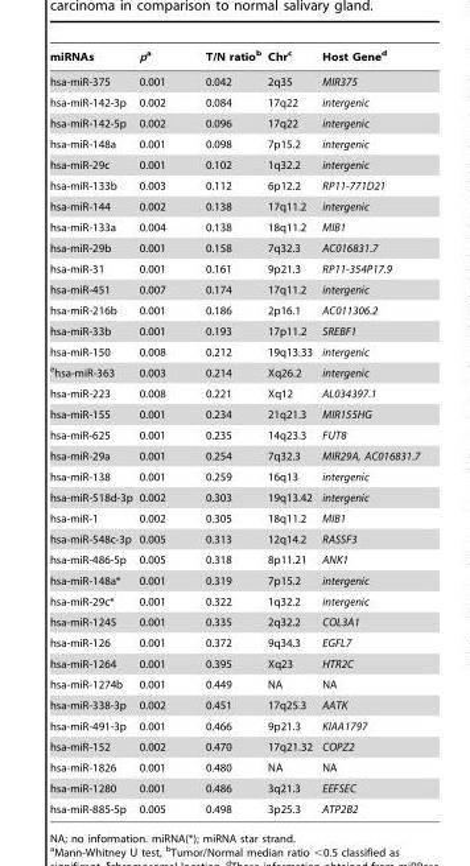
<table><thead><tr><td>miRNAs</td><td>pa</td><td>T/N ratio<sup>b</sup></td><td>Chr<sup>c</sup></td><td>Host Gene<sup>d</sup></td></tr></thead><tbody><tr><td>hsa-miR-375</td><td>0.001</td><td>0.042</td><td>2q35</td><td>MIR375</td></tr><tr><td>hsa-miR-142-3p</td><td>0.002</td><td>0.084</td><td>17q22</td><td>intergenic</td></tr><tr><td>hsa-miR-142-5p</td><td>0.002</td><td>0.096</td><td>17q22</td><td>intergenic</td></tr><tr><td>hsa-miR-148a</td><td>0.001</td><td>0.098</td><td>7p15.2</td><td>intergenic</td></tr><tr><td>hsa-miR-29c</td><td>0.001</td><td>0.102</td><td>1q32.2</td><td>intergenic</td></tr><tr><td>hsa-miR-133b</td><td>0.003</td><td>0.112</td><td>6p12.2</td><td>RP11-771D21</td></tr><tr><td>hsa-miR-144</td><td>0.002</td><td>0.138</td><td>17q11.2</td><td>intergenic</td></tr><tr><td>hsa-miR-133a</td><td>0.004</td><td>0.138</td><td>18q11.2</td><td>MIB1</td></tr><tr><td>hsa-miR-29b</td><td>0.001</td><td>0.158</td><td>7q32.3</td><td>AC016831.7</td></tr><tr><td>hsa-miR-31</td><td>0.001</td><td>0.161</td><td>9p21.3</td><td>RP11-354P17.9</td></tr><tr><td>hsa-miR-451</td><td>0.007</td><td>0.174</td><td>17q11.2</td><td>intergenic</td></tr><tr><td>hsa-miR-216b</td><td>0.001</td><td>0.186</td><td>2p16.1</td><td>AC011306.2</td></tr><tr><td>hsa-miR-33b</td><td>0.001</td><td>0.193</td><td>17p11.2</td><td>SREBF1</td></tr><tr><td>hsa-miR-150</td><td>0.008</td><td>0.212</td><td>19q13.33</td><td>intergenic</td></tr><tr><td><sup>e</sup>hsa-miR-363</td><td>0.003</td><td>0.214</td><td>Xq26.2</td><td>intergenic</td></tr><tr><td>hsa-miR-223</td><td>0.008</td><td>0.221</td><td>Xq12</td><td>AL034397.1</td></tr><tr><td>hsa-miR-155</td><td>0.001</td><td>0.234</td><td>21q21.3</td><td>MIR155HG</td></tr><tr><td>hsa-miR-625</td><td>0.001</td><td>0.235</td><td>14q23.3</td><td>FUT8</td></tr><tr><td>hsa-miR-29a</td><td>0.001</td><td>0.254</td><td>7q32.3</td><td>MIR29A, AC016831.7</td></tr><tr><td>hsa-miR-138</td><td>0.001</td><td>0.259</td><td>16q13</td><td>intergenic</td></tr><tr><td>hsa-miR-518d-3p</td><td>0.002</td><td>0.303</td><td>19q13.42</td><td>intergenic</td></tr><tr><td>hsa-miR-1</td><td>0.002</td><td>0.305</td><td>18q11.2</td><td>MIB1</td></tr><tr><td>hsa-miR-548c-3p</td><td>0.005</td><td>0.313</td><td>12q14.2</td><td>RASSF3</td></tr><tr><td>hsa-miR-486-5p</td><td>0.005</td><td>0.318</td><td>8p11.21</td><td>ANK1</td></tr><tr><td>hsa-miR-148a*</td><td>0.001</td><td>0.319</td><td>7p15.2</td><td>intergenic</td></tr><tr><td>hsa-miR-29c*</td><td>0.001</td><td>0.322</td><td>1q32.2</td><td>intergenic</td></tr><tr><td>hsa-miR-1245</td><td>0.001</td><td>0.335</td><td>2q32.2</td><td>COL3A1</td></tr><tr><td>hsa-miR-126</td><td>0.001</td><td>0.372</td><td>9q34.3</td><td>EGFL7</td></tr><tr><td>hsa-miR-1264</td><td>0.001</td><td>0.395</td><td>Xq23</td><td>HTR2C</td></tr><tr><td>hsa-miR-1274b</td><td>0.001</td><td>0.449</td><td>NA</td><td>NA</td></tr><tr><td>hsa-miR-338-3p</td><td>0.002</td><td>0.451</td><td>17q25.3</td><td>AATK</td></tr><tr><td>hsa-miR-491-3p</td><td>0.001</td><td>0.466</td><td>9p21.3</td><td>KIAA1797</td></tr><tr><td>hsa-miR-152</td><td>0.002</td><td>0.470</td><td>17q21.32</td><td>COPZ2</td></tr><tr><td>hsa-miR-1826</td><td>0.001</td><td>0.480</td><td>NA</td><td>NA</td></tr><tr><td>hsa-miR-1280</td><td>0.001</td><td>0.486</td><td>3q21.3</td><td>EEFSEC</td></tr><tr><td>hsa-miR-885-5p</td><td>0.005</td><td>0.498</td><td>3p25.3</td><td>ATP2B2</td></tr></tbody></table>